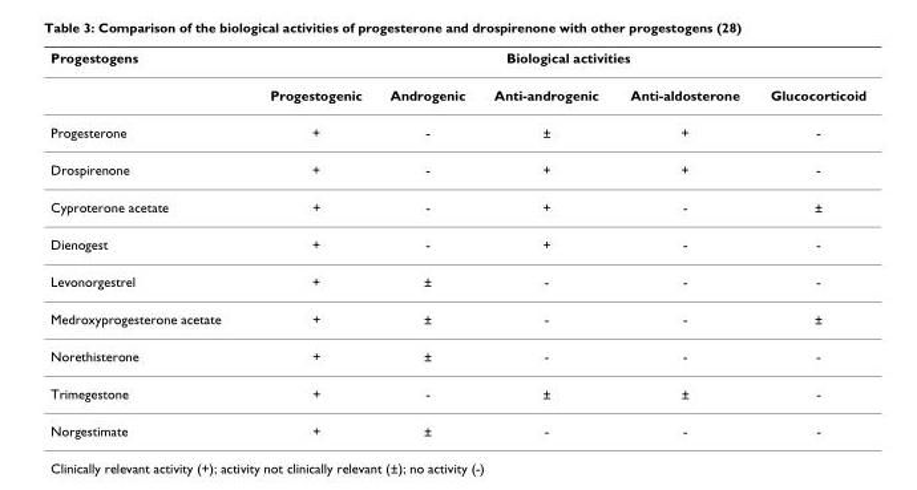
<table><thead><tr><td rowspan="2">Progestogens</td><td colspan="5">Biological activities</td></tr><tr><td>Progestogenic</td><td>Androgenic</td><td>Anti-androgenic</td><td>Anti-aldosterone</td><td>Glucocorticoid</td></tr></thead><tbody><tr><td>Progesterone</td><td>+</td><td>-</td><td>±</td><td>+</td><td>-</td></tr><tr><td>Drospirenone</td><td>+</td><td>-</td><td>+</td><td>+</td><td>-</td></tr><tr><td>Cyproterone acetate</td><td>+</td><td>-</td><td>+</td><td>-</td><td>±</td></tr><tr><td>Dienogest</td><td>+</td><td>-</td><td>+</td><td>-</td><td>-</td></tr><tr><td>Levonorgestrel</td><td>+</td><td>±</td><td>-</td><td>-</td><td>-</td></tr><tr><td>Medroxyprogesterone acetate</td><td>+</td><td>±</td><td>-</td><td>-</td><td>±</td></tr><tr><td>Norethisterone</td><td>+</td><td>±</td><td>-</td><td>-</td><td>-</td></tr><tr><td>Trimegestone</td><td>+</td><td>-</td><td>±</td><td>±</td><td>-</td></tr><tr><td>Norgestimate</td><td>+</td><td>±</td><td>-</td><td>-</td><td>-</td></tr></tbody></table>